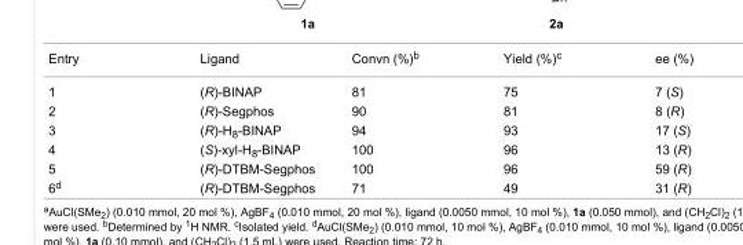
<table><tbody><tr><td>Entry</td><td>Ligand</td><td>Convn (%)<sup>b</sup></td><td>Yield (%)<sup>c</sup></td><td>ee (%)</td></tr><tr><td>1</td><td>(R)-BINAP</td><td>81</td><td>75</td><td>7 (S)</td></tr><tr><td>2</td><td>(R)-Segphos</td><td>90</td><td>81</td><td>8 (R)</td></tr><tr><td>3</td><td>(R)-H<sub>8</sub>-BINAP</td><td>94</td><td>93</td><td>17 (S)</td></tr><tr><td>4</td><td>(S)-xyl-H<sub>8</sub>-BINAP</td><td>100</td><td>96</td><td>13 (R)</td></tr><tr><td>5</td><td>(R)-DTBM-Segphos</td><td>100</td><td>96</td><td>59 (R)</td></tr><tr><td>6<sup>d</sup></td><td>(R)-DTBM-Segphos</td><td>71</td><td>49</td><td>31 (R)</td></tr></tbody></table>